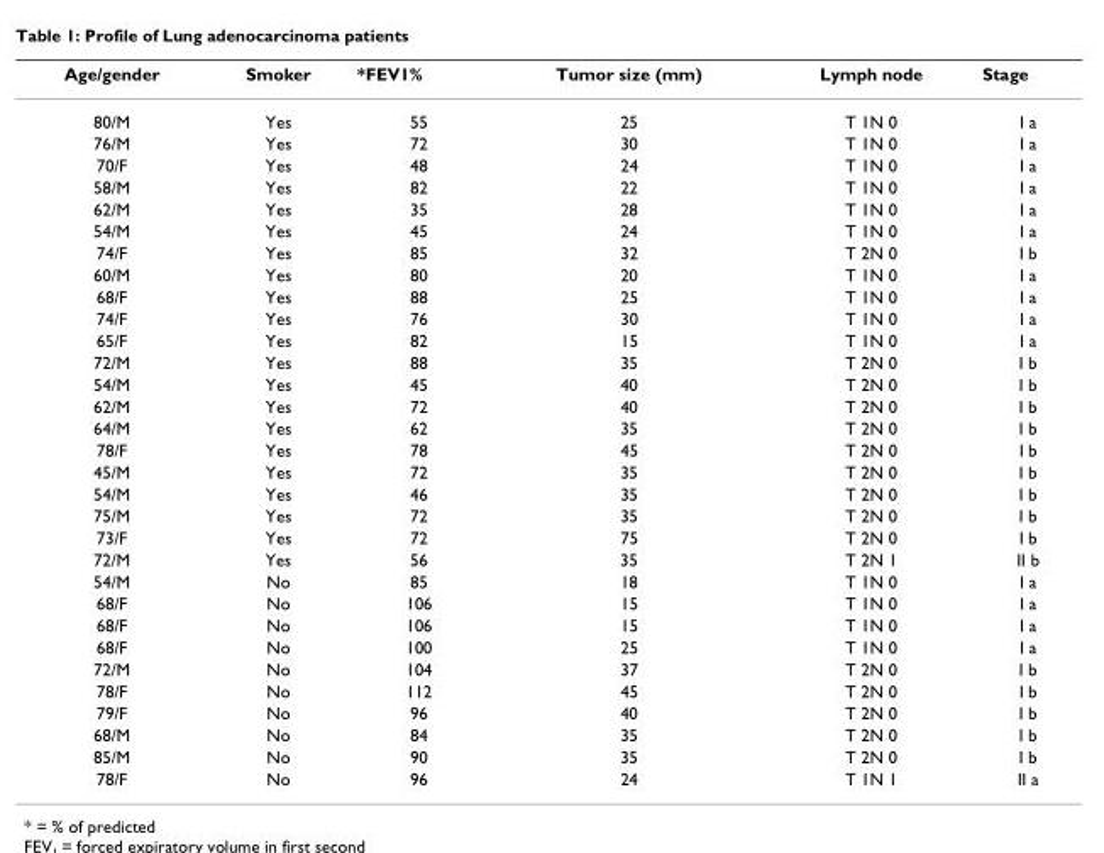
<table><thead><tr><td>Age/gender</td><td>Smoker</td><td>*FEV1%</td><td>Tumor size (mm)</td><td>Lymph node</td><td>Stage</td></tr></thead><tbody><tr><td>80/M</td><td>Yes</td><td>55</td><td>25</td><td>T 1N 0</td><td>I a</td></tr><tr><td>76/M</td><td>Yes</td><td>72</td><td>30</td><td>T 1N 0</td><td>I a</td></tr><tr><td>70/F</td><td>Yes</td><td>48</td><td>24</td><td>T 1N 0</td><td>I a</td></tr><tr><td>58/M</td><td>Yes</td><td>82</td><td>22</td><td>T 1N 0</td><td>I a</td></tr><tr><td>62/M</td><td>Yes</td><td>35</td><td>28</td><td>T 1N 0</td><td>I a</td></tr><tr><td>54/M</td><td>Yes</td><td>45</td><td>24</td><td>T 1N 0</td><td>I a</td></tr><tr><td>74/F</td><td>Yes</td><td>85</td><td>32</td><td>T 2N 0</td><td>I b</td></tr><tr><td>60/M</td><td>Yes</td><td>80</td><td>20</td><td>T 1N 0</td><td>I a</td></tr><tr><td>68/F</td><td>Yes</td><td>88</td><td>25</td><td>T 1N 0</td><td>I a</td></tr><tr><td>74/F</td><td>Yes</td><td>76</td><td>30</td><td>T 1N 0</td><td>I a</td></tr><tr><td>65/F</td><td>Yes</td><td>82</td><td>15</td><td>T 1N 0</td><td>I a</td></tr><tr><td>72/M</td><td>Yes</td><td>88</td><td>35</td><td>T 2N 0</td><td>I b</td></tr><tr><td>54/M</td><td>Yes</td><td>45</td><td>40</td><td>T 2N 0</td><td>I b</td></tr><tr><td>62/M</td><td>Yes</td><td>72</td><td>40</td><td>T 2N 0</td><td>I b</td></tr><tr><td>64/M</td><td>Yes</td><td>62</td><td>35</td><td>T 2N 0</td><td>I b</td></tr><tr><td>78/F</td><td>Yes</td><td>78</td><td>45</td><td>T 2N 0</td><td>I b</td></tr><tr><td>45/M</td><td>Yes</td><td>72</td><td>35</td><td>T 2N 0</td><td>I b</td></tr><tr><td>54/M</td><td>Yes</td><td>46</td><td>35</td><td>T 2N 0</td><td>I b</td></tr><tr><td>75/M</td><td>Yes</td><td>72</td><td>35</td><td>T 2N 0</td><td>I b</td></tr><tr><td>73/F</td><td>Yes</td><td>72</td><td>75</td><td>T 2N 0</td><td>I b</td></tr><tr><td>72/M</td><td>Yes</td><td>56</td><td>35</td><td>T 2N 1</td><td>II b</td></tr><tr><td>54/M</td><td>No</td><td>85</td><td>18</td><td>T 1N 0</td><td>I a</td></tr><tr><td>68/F</td><td>No</td><td>106</td><td>15</td><td>T 1N 0</td><td>I a</td></tr><tr><td>68/F</td><td>No</td><td>106</td><td>15</td><td>T 1N 0</td><td>I a</td></tr><tr><td>68/F</td><td>No</td><td>100</td><td>25</td><td>T 1N 0</td><td>I a</td></tr><tr><td>72/M</td><td>No</td><td>104</td><td>37</td><td>T 2N 0</td><td>I b</td></tr><tr><td>78/F</td><td>No</td><td>112</td><td>45</td><td>T 2N 0</td><td>I b</td></tr><tr><td>79/F</td><td>No</td><td>96</td><td>40</td><td>T 2N 0</td><td>I b</td></tr><tr><td>68/M</td><td>No</td><td>84</td><td>35</td><td>T 2N 0</td><td>I b</td></tr><tr><td>85/M</td><td>No</td><td>90</td><td>35</td><td>T 2N 0</td><td>I b</td></tr><tr><td>78/F</td><td>No</td><td>96</td><td>24</td><td>T 1N 1</td><td>II a</td></tr></tbody></table>